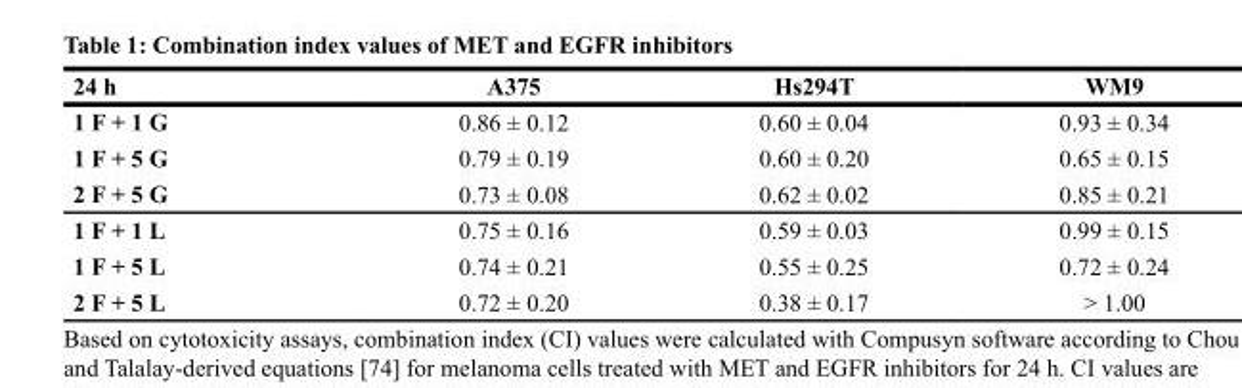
<table><thead><tr><td>24 h</td><td>A375</td><td>Hs294T</td><td>WM9</td></tr></thead><tbody><tr><td>1 F + 1 G</td><td>0.86 ± 0.12</td><td>0.60 ± 0.04</td><td>0.93 ± 0.34</td></tr><tr><td>1 F + 5 G</td><td>0.79 ± 0.19</td><td>0.60 ± 0.20</td><td>0.65 ± 0.15</td></tr><tr><td>2 F + 5 G</td><td>0.73 ± 0.08</td><td>0.62 ± 0.02</td><td>0.85 ± 0.21</td></tr><tr><td>1 F + 1 L</td><td>0.75 ± 0.16</td><td>0.59 ± 0.03</td><td>0.99 ± 0.15</td></tr><tr><td>1 F + 5 L</td><td>0.74 ± 0.21</td><td>0.55 ± 0.25</td><td>0.72 ± 0.24</td></tr><tr><td>2 F + 5 L</td><td>0.72 ± 0.20</td><td>0.38 ± 0.17</td><td>&gt; 1.00</td></tr></tbody></table>